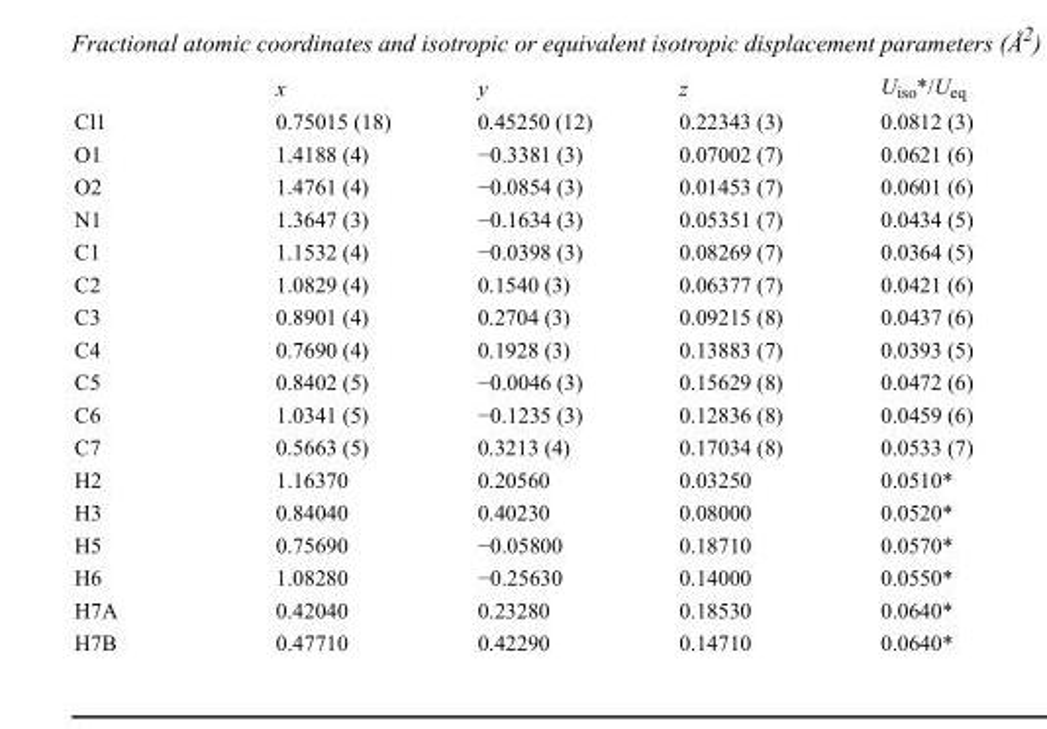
<table><thead><tr><td></td><td>x</td><td>y</td><td>z</td><td>U<sub>iso</sub>*/U<sub>eq</sub></td></tr></thead><tbody><tr><td>Cl1</td><td>0.75015 (18)</td><td>0.45250 (12)</td><td>0.22343 (3)</td><td>0.0812 (3)</td></tr><tr><td>O1</td><td>1.4188 (4)</td><td>−0.3381 (3)</td><td>0.07002 (7)</td><td>0.0621 (6)</td></tr><tr><td>O2</td><td>1.4761 (4)</td><td>−0.0854 (3)</td><td>0.01453 (7)</td><td>0.0601 (6)</td></tr><tr><td>N1</td><td>1.3647 (3)</td><td>−0.1634 (3)</td><td>0.05351 (7)</td><td>0.0434 (5)</td></tr><tr><td>C1</td><td>1.1532 (4)</td><td>−0.0398 (3)</td><td>0.08269 (7)</td><td>0.0364 (5)</td></tr><tr><td>C2</td><td>1.0829 (4)</td><td>0.1540 (3)</td><td>0.06377 (7)</td><td>0.0421 (6)</td></tr><tr><td>C3</td><td>0.8901 (4)</td><td>0.2704 (3)</td><td>0.09215 (8)</td><td>0.0437 (6)</td></tr><tr><td>C4</td><td>0.7690 (4)</td><td>0.1928 (3)</td><td>0.13883 (7)</td><td>0.0393 (5)</td></tr><tr><td>C5</td><td>0.8402 (5)</td><td>−0.0046 (3)</td><td>0.15629 (8)</td><td>0.0472 (6)</td></tr><tr><td>C6</td><td>1.0341 (5)</td><td>−0.1235 (3)</td><td>0.12836 (8)</td><td>0.0459 (6)</td></tr><tr><td>C7</td><td>0.5663 (5)</td><td>0.3213 (4)</td><td>0.17034 (8)</td><td>0.0533 (7)</td></tr><tr><td>H2</td><td>1.16370</td><td>0.20560</td><td>0.03250</td><td>0.0510*</td></tr><tr><td>H3</td><td>0.84040</td><td>0.40230</td><td>0.08000</td><td>0.0520*</td></tr><tr><td>H5</td><td>0.75690</td><td>−0.05800</td><td>0.18710</td><td>0.0570*</td></tr><tr><td>H6</td><td>1.08280</td><td>−0.25630</td><td>0.14000</td><td>0.0550*</td></tr><tr><td>H7A</td><td>0.42040</td><td>0.23280</td><td>0.18530</td><td>0.0640*</td></tr><tr><td>H7B</td><td>0.47710</td><td>0.42290</td><td>0.14710</td><td>0.0640*</td></tr></tbody></table>